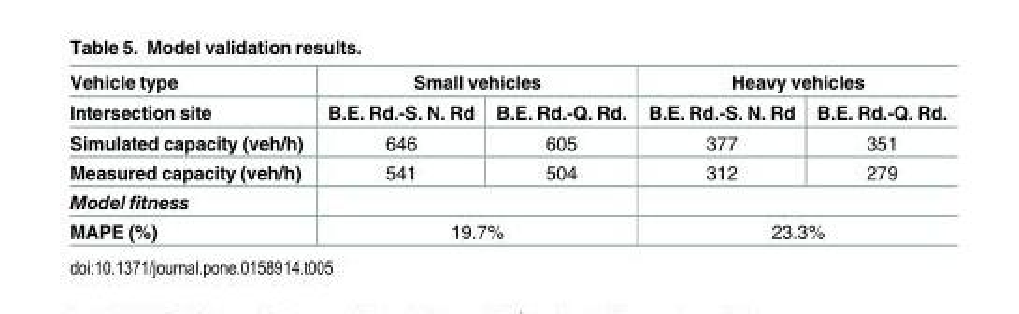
<table><thead><tr><td rowspan="2">Vehicle type Intersection site</td><td colspan="2">Small vehicles</td><td colspan="2">Heavy vehicles</td></tr><tr><td>B.E. Rd.-S. N. Rd</td><td>B.E. Rd.-Q. Rd.</td><td>B.E. Rd.-S. N. Rd</td><td>B.E. Rd.-Q. Rd.</td></tr></thead><tbody><tr><td>Simulated capacity (veh/h)</td><td>646</td><td>605</td><td>377</td><td>351</td></tr><tr><td>Measured capacity (veh/h)</td><td>541</td><td>504</td><td>312</td><td>279</td></tr><tr><td colspan="5">Model fitness</td></tr><tr><td>MAPE (%)</td><td colspan="2">19.7%</td><td colspan="2">23.3%</td></tr></tbody></table>